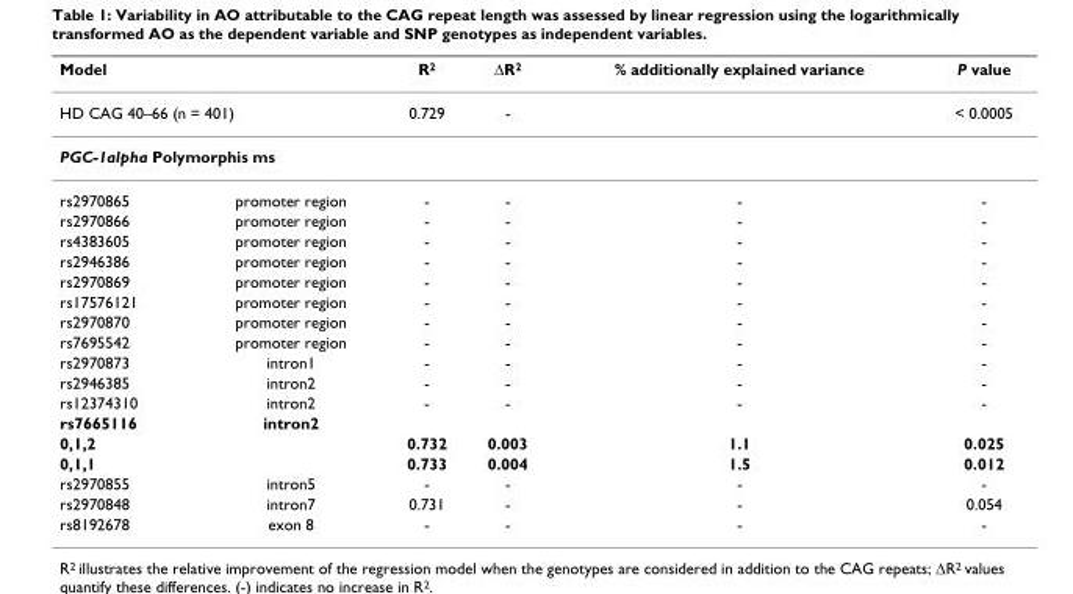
<table><thead><tr><td rowspan="3" colspan="2">Model HD CAG 40–66 (n = 401) PGC-1alpha Polymorphis ms</td><td rowspan="4">R2 0.729 -</td><td rowspan="4">ΔR2 - -</td><td rowspan="4">% additionally explained variance -</td><td rowspan="4">P value &lt; 0.0005 -</td></tr><tr></tr><tr></tr><tr><td>rs2970865</td><td>promoter region</td></tr></thead><tbody><tr><td>rs2970866</td><td>promoter region</td><td>-</td><td>-</td><td>-</td><td>-</td></tr><tr><td>rs4383605</td><td>promoter region</td><td>-</td><td>-</td><td>-</td><td>-</td></tr><tr><td>rs2946386</td><td>promoter region</td><td>-</td><td>-</td><td>-</td><td>-</td></tr><tr><td>rs2970869</td><td>promoter region</td><td>-</td><td>-</td><td>-</td><td>-</td></tr><tr><td>rs17576121</td><td>promoter region</td><td>-</td><td>-</td><td>-</td><td>-</td></tr><tr><td>rs2970870</td><td>promoter region</td><td>-</td><td>-</td><td>-</td><td>-</td></tr><tr><td>rs7695542</td><td>promoter region</td><td>-</td><td>-</td><td>-</td><td>-</td></tr><tr><td>rs2970873</td><td>intron1</td><td>-</td><td>-</td><td>-</td><td>-</td></tr><tr><td>rs2946385</td><td>intron2</td><td>-</td><td>-</td><td>-</td><td>-</td></tr><tr><td>rs12374310</td><td>intron2</td><td>-</td><td>-</td><td>-</td><td>-</td></tr><tr><td>rs7665116</td><td>intron2</td><td></td><td></td><td></td><td></td></tr><tr><td>0,1,2</td><td></td><td>0.732</td><td>0.003</td><td>1.1</td><td>0.025</td></tr><tr><td>0,1,1</td><td></td><td>0.733</td><td>0.004</td><td>1.5</td><td>0.012</td></tr><tr><td>rs2970855</td><td>intron5</td><td>-</td><td>-</td><td>-</td><td>-</td></tr><tr><td>rs2970848</td><td>intron7</td><td>0.731</td><td>-</td><td>-</td><td>0.054</td></tr><tr><td>rs8192678</td><td>exon 8</td><td>-</td><td>-</td><td>-</td><td>-</td></tr></tbody></table>